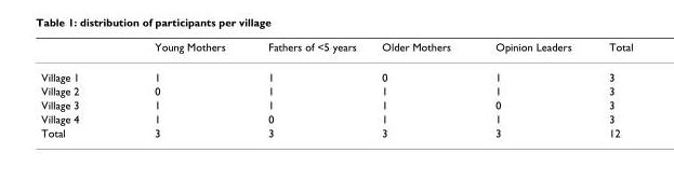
<table><thead><tr><td></td><td>Young Mothers</td><td>Fathers of &lt;5 years</td><td>Older Mothers</td><td>Opinion Leaders</td><td>Total</td></tr></thead><tbody><tr><td>Village 1</td><td>1</td><td>1</td><td>0</td><td>1</td><td>3</td></tr><tr><td>Village 2</td><td>0</td><td>1</td><td>1</td><td>1</td><td>3</td></tr><tr><td>Village 3</td><td>1</td><td>1</td><td>1</td><td>0</td><td>3</td></tr><tr><td>Village 4</td><td>1</td><td>0</td><td>1</td><td>1</td><td>3</td></tr><tr><td>Total</td><td>3</td><td>3</td><td>3</td><td>3</td><td>12</td></tr></tbody></table>